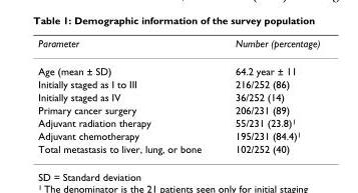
<table><thead><tr><td>Parameter</td><td>Number (percentage)</td></tr></thead><tbody><tr><td>Age (mean ± SD)</td><td>64.2 year ± 11</td></tr><tr><td>Initially staged as I to III</td><td>216/252 (86)</td></tr><tr><td>Initially staged as IV</td><td>36/252 (14)</td></tr><tr><td>Primary cancer surgery</td><td>206/231 (89)</td></tr><tr><td>Adjuvant radiation therapy</td><td>55/231 (23.8)<sup>1</sup></td></tr><tr><td>Adjuvant chemotherapy</td><td>195/231 (84.4)<sup>1</sup></td></tr><tr><td>Total metastasis to liver, lung, or bone</td><td>102/252 (40)</td></tr></tbody></table>